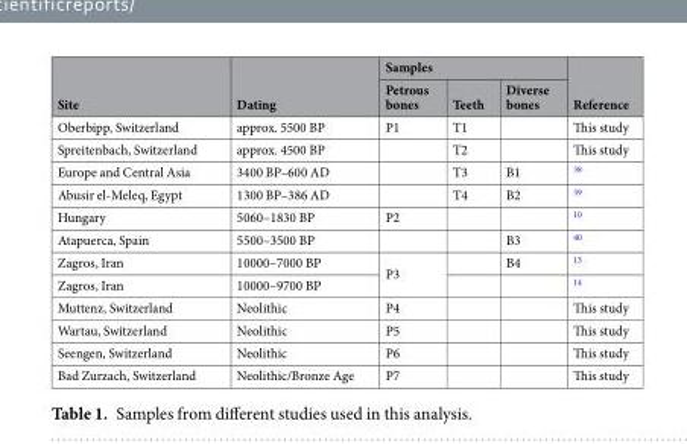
<table><thead><tr><td rowspan="2">Site</td><td rowspan="2">Dating</td><td colspan="3">Samples</td><td rowspan="2">Reference</td></tr><tr><td>Petrous bones</td><td>Teeth</td><td>Diverse bones</td></tr></thead><tbody><tr><td>Oberbipp, Switzerland</td><td>approx. 5500 BP</td><td>P1</td><td>T1</td><td></td><td>This study</td></tr><tr><td>Spreitenbach, Switzerland</td><td>approx. 4500 BP</td><td></td><td>T2</td><td></td><td>This study</td></tr><tr><td>Europe and Central Asia</td><td>3400 BP–600 AD</td><td></td><td>T3</td><td>B1</td><td><sup>38</sup></td></tr><tr><td>Abusir el-Meleq, Egypt</td><td>1300 BP–386 AD</td><td></td><td>T4</td><td>B2</td><td><sup>39</sup></td></tr><tr><td>Hungary</td><td>5060–1830 BP</td><td>P2</td><td></td><td></td><td><sup>10</sup></td></tr><tr><td>Atapuerca, Spain</td><td>5500–3500 BP</td><td></td><td></td><td>B3</td><td><sup>40</sup></td></tr><tr><td>Zagros, Iran</td><td>10000–7000 BP</td><td rowspan="2">P3</td><td></td><td>B4</td><td><sup>13</sup></td></tr><tr><td>Zagros, Iran</td><td>10000–9700 BP</td><td></td><td></td><td><sup>14</sup></td></tr><tr><td>Muttenz, Switzerland</td><td>Neolithic</td><td>P4</td><td></td><td></td><td>This study</td></tr><tr><td>Wartau, Switzerland</td><td>Neolithic</td><td>P5</td><td></td><td></td><td>This study</td></tr><tr><td>Seengen, Switzerland</td><td>Neolithic</td><td>P6</td><td></td><td></td><td>This study</td></tr><tr><td>Bad Zurzach, Switzerland</td><td>Neolithic/Bronze Age</td><td>P7</td><td></td><td></td><td>This study</td></tr></tbody></table>